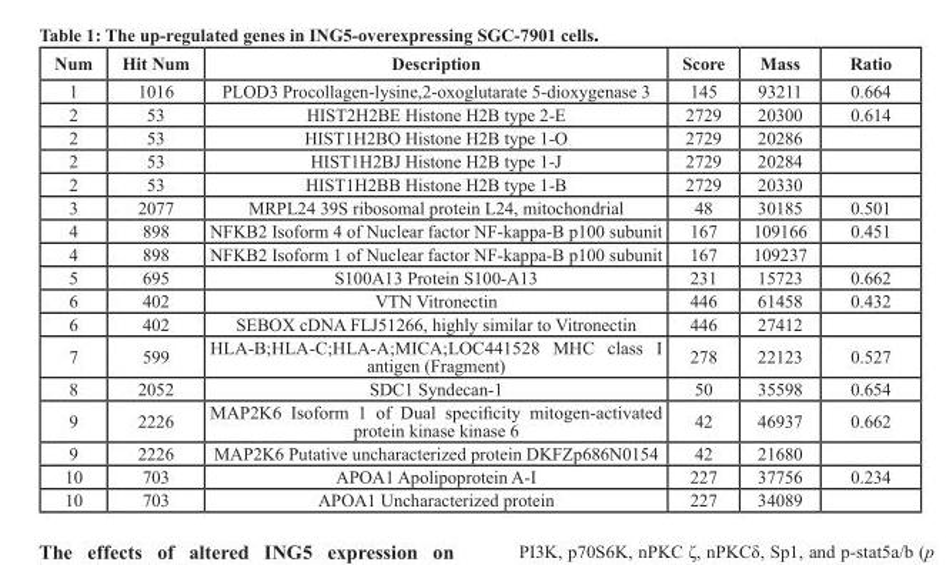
<table><thead><tr><td>Num</td><td>Hit Num</td><td>Description</td><td>Score</td><td>Mass</td><td>Ratio</td></tr></thead><tbody><tr><td>1</td><td>1016</td><td>PLOD3 Procollagen-lysine,2-oxoglutarate 5-dioxygenase 3</td><td>145</td><td>93211</td><td>0.664</td></tr><tr><td>2</td><td>53</td><td>HIST2H2BE Histone H2B type 2-E</td><td>2729</td><td>20300</td><td>0.614</td></tr><tr><td>2</td><td>53</td><td>HIST1H2BO Histone H2B type 1-O</td><td>2729</td><td>20286</td><td></td></tr><tr><td>2</td><td>53</td><td>HIST1H2BJ Histone H2B type 1-J</td><td>2729</td><td>20284</td><td></td></tr><tr><td>2</td><td>53</td><td>HIST1H2BB Histone H2B type 1-B</td><td>2729</td><td>20330</td><td></td></tr><tr><td>3</td><td>2077</td><td>MRPL24 39S ribosomal protein L24, mitochondrial</td><td>48</td><td>30185</td><td>0.501</td></tr><tr><td>4</td><td>898</td><td>NFKB2 Isoform 4 of Nuclear factor NF-kappa-B p100 subunit</td><td>167</td><td>109166</td><td>0.451</td></tr><tr><td>4</td><td>898</td><td>NFKB2 Isoform 1 of Nuclear factor NF-kappa-B p100 subunit</td><td>167</td><td>109237</td><td></td></tr><tr><td>5</td><td>695</td><td>S100A13 Protein S100-A13</td><td>231</td><td>15723</td><td>0.662</td></tr><tr><td>6</td><td>402</td><td>VTN Vitronectin</td><td>446</td><td>61458</td><td>0.432</td></tr><tr><td>6</td><td>402</td><td>SEBOX cDNA FLJ51266, highly similar to Vitronectin</td><td>446</td><td>27412</td><td></td></tr><tr><td>7</td><td>599</td><td>HLA-B;HLA-C;HLA-A;MICA;LOC441528 MHC class I antigen (Fragment)</td><td>278</td><td>22123</td><td>0.527</td></tr><tr><td>8</td><td>2052</td><td>SDC1 Syndecan-1</td><td>50</td><td>35598</td><td>0.654</td></tr><tr><td>9</td><td>2226</td><td>MAP2K6 Isoform 1 of Dual specificity mitogen-activated protein kinase kinase 6</td><td>42</td><td>46937</td><td>0.662</td></tr><tr><td>9</td><td>2226</td><td>MAP2K6 Putative uncharacterized protein DKFZp686N0154</td><td>42</td><td>21680</td><td></td></tr><tr><td>10</td><td>703</td><td>APOA1 Apolipoprotein A-I</td><td>227</td><td>37756</td><td>0.234</td></tr><tr><td>10</td><td>703</td><td>APOA1 Uncharacterized protein</td><td>227</td><td>34089</td><td></td></tr></tbody></table>